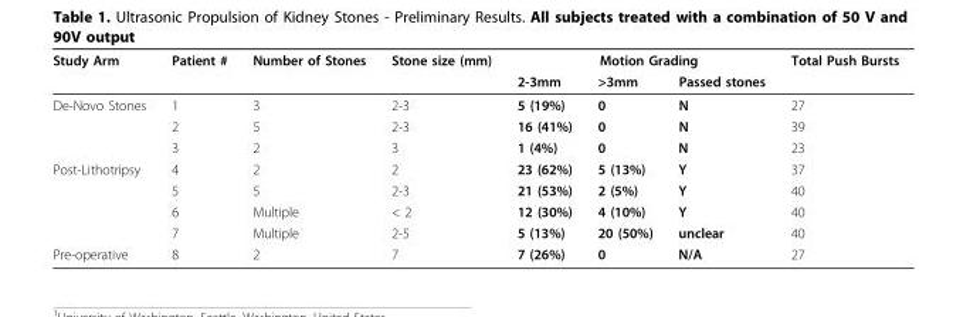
<table><tbody><tr><td rowspan="2">Study Arm</td><td>Patient #</td><td>Number of Stones</td><td>Stone size (mm)</td><td colspan="3">Motion Grading</td><td>Total Push Bursts</td></tr><tr><td></td><td></td><td></td><td>2-3mm</td><td>&gt;3mm</td><td>Passed stones</td><td></td></tr><tr><td rowspan="3">De-Novo Stones</td><td>1</td><td>3</td><td>2-3</td><td>5 (19%)</td><td>0</td><td>N</td><td>27</td></tr><tr><td>2</td><td>5</td><td>2-3</td><td>16 (41%)</td><td>0</td><td>N</td><td>39</td></tr><tr><td>3</td><td>2</td><td>3</td><td>1 (4%)</td><td>0</td><td>N</td><td>23</td></tr><tr><td rowspan="4">Post-Lithotripsy</td><td>4</td><td>2</td><td>2</td><td>23 (62%)</td><td>5 (13%)</td><td>Y</td><td>37</td></tr><tr><td>5</td><td>5</td><td>2-3</td><td>21 (53%)</td><td>2 (5%)</td><td>Y</td><td>40</td></tr><tr><td>6</td><td>Multiple</td><td>&lt; 2</td><td>12 (30%)</td><td>4 (10%)</td><td>Y</td><td>40</td></tr><tr><td>7</td><td>Multiple</td><td>2-5</td><td>5 (13%)</td><td>20 (50%)</td><td>unclear</td><td>40</td></tr><tr><td>Pre-operative</td><td>8</td><td>2</td><td>7</td><td>7 (26%)</td><td>0</td><td>N/A</td><td>27</td></tr></tbody></table>